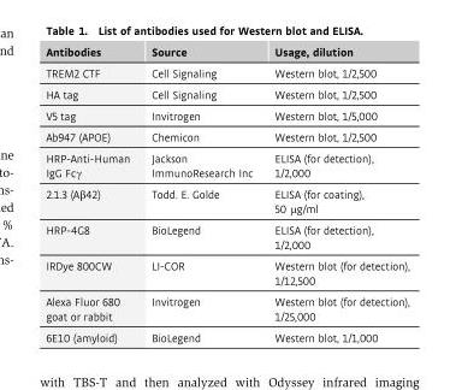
<table><thead><tr><td>Antibodies</td><td>Source</td><td>Usage, dilution</td></tr></thead><tbody><tr><td>TREM2 CTF</td><td>Cell Signaling</td><td>Western blot, 1/2,500</td></tr><tr><td>HA tag</td><td>Cell Signaling</td><td>Western blot, 1/2,500</td></tr><tr><td>V5 tag</td><td>Invitrogen</td><td>Western blot, 1/5,000</td></tr><tr><td>Ab947 (APOE)</td><td>Chemicon</td><td>Western blot, 1/2,500</td></tr><tr><td>HRP-Anti-Human IgG Fcγ</td><td>Jackson ImmunoResearch Inc</td><td>ELISA (for detection), 1/2,000</td></tr><tr><td>2.1.3 (Aβ42)</td><td>Todd. E. Golde</td><td>ELISA (for coating), 50 μg/ml</td></tr><tr><td>HRP-4G8</td><td>BioLegend</td><td>ELISA (for detection), 1/2,000</td></tr><tr><td>IRDye 800CW</td><td>LI-COR</td><td>Western blot (for detection), 1/12,500</td></tr><tr><td>Alexa Fluor 680 goat or rabbit</td><td>Invitrogen</td><td>Western blot (for detection), 1/25,000</td></tr><tr><td>6E10 (amyloid)</td><td>BioLegend</td><td>Western blot, 1/1,000</td></tr></tbody></table>